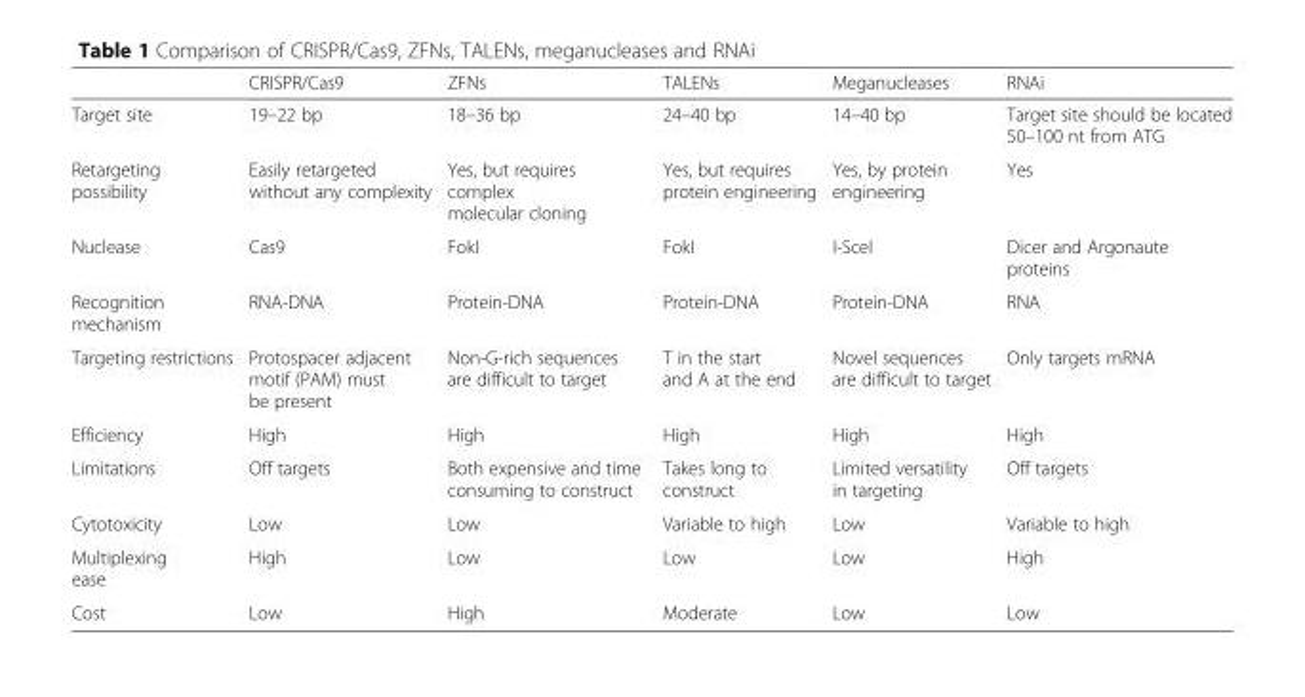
<table><thead><tr><td></td><td>CRISPR/Cas9</td><td>ZFNs</td><td>TALENs</td><td>Meganucleases</td><td>RNAi</td></tr></thead><tbody><tr><td>Target site</td><td>19–22 bp</td><td>18–36 bp</td><td>24–40 bp</td><td>14–40 bp</td><td>Target site should be located 50–100 nt from ATG</td></tr><tr><td>Retargeting possibility</td><td>Easily retargeted without any complexity</td><td>Yes, but requires complex molecular cloning</td><td>Yes, but requires protein engineering</td><td>Yes, by protein engineering</td><td>Yes</td></tr><tr><td>Nuclease</td><td>Cas9</td><td>FokI</td><td>FokI</td><td>I-SceI</td><td>Dicer and Argonaute proteins</td></tr><tr><td>Recognition mechanism</td><td>RNA-DNA</td><td>Protein-DNA</td><td>Protein-DNA</td><td>Protein-DNA</td><td>RNA</td></tr><tr><td>Targeting restrictions</td><td>Protospacer adjacent motif (PAM) must be present</td><td>Non-G-rich sequences are difficult to target</td><td>T in the start and A at the end</td><td>Novel sequences are difficult to target</td><td>Only targets mRNA</td></tr><tr><td>Efficiency</td><td>High</td><td>High</td><td>High</td><td>High</td><td>High</td></tr><tr><td>Limitations</td><td>Off targets</td><td>Both expensive and time consuming to construct</td><td>Takes long to construct</td><td>Limited versatility in targeting</td><td>Off targets</td></tr><tr><td>Cytotoxicity</td><td>Low</td><td>Low</td><td>Variable to high</td><td>Low</td><td>Variable to high</td></tr><tr><td>Multiplexing ease</td><td>High</td><td>Low</td><td>Low</td><td>Low</td><td>High</td></tr><tr><td>Cost</td><td>Low</td><td>High</td><td>Moderate</td><td>Low</td><td>Low</td></tr></tbody></table>